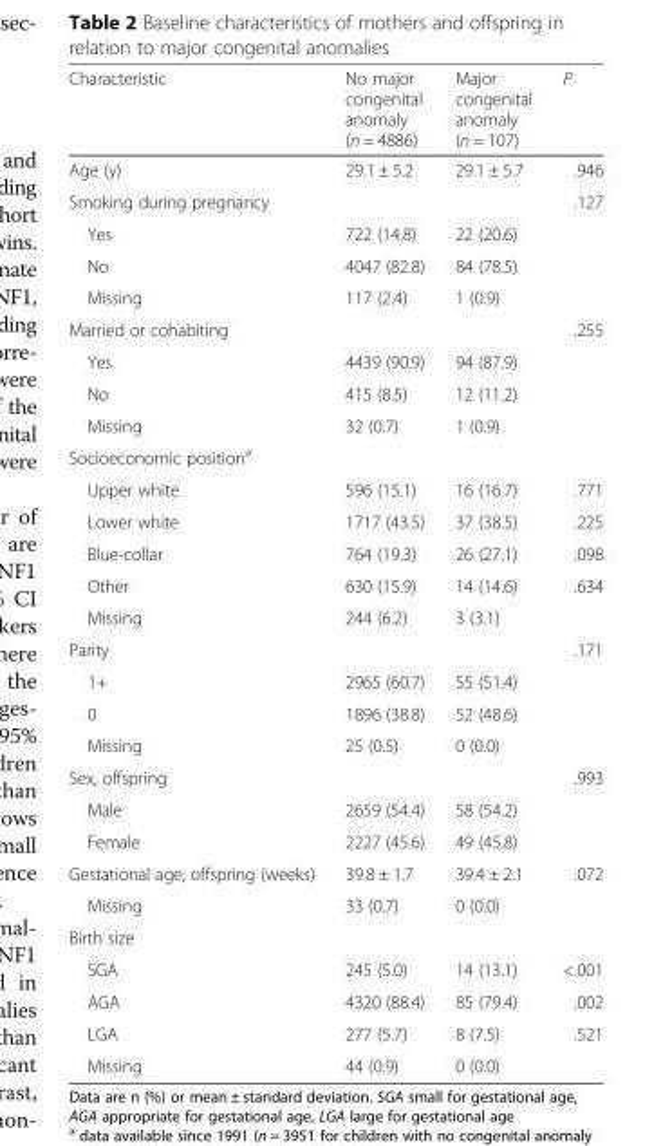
<table><thead><tr><td>Characteristic</td><td>No major congenital anomaly (n = 4886)</td><td>Major congenital anomaly (n = 107)</td><td>P</td></tr></thead><tbody><tr><td>Age (y)</td><td>29.1 ± 5.2</td><td>29.1 ± 5.7</td><td>.946</td></tr><tr><td>Smoking during pregnancy</td><td></td><td></td><td>.127</td></tr><tr><td>Yes</td><td>722 (14.8)</td><td>22 (20.6)</td><td></td></tr><tr><td>No</td><td>4047 (82.8)</td><td>84 (78.5)</td><td></td></tr><tr><td>Missing</td><td>117 (2.4)</td><td>1 (0.9)</td><td></td></tr><tr><td>Married or cohabiting</td><td></td><td></td><td>.255</td></tr><tr><td>Yes</td><td>4439 (90.9)</td><td>94 (87.9)</td><td></td></tr><tr><td>No</td><td>415 (8.5)</td><td>12 (11.2)</td><td></td></tr><tr><td>Missing</td><td>32 (0.7)</td><td>1 (0.9)</td><td></td></tr><tr><td colspan="4">Socioeconomic position<sup>a</sup></td></tr><tr><td>Upper white</td><td>596 (15.1)</td><td>16 (16.7)</td><td>.771</td></tr><tr><td>Lower white</td><td>1717 (43.5)</td><td>37 (38.5)</td><td>.225</td></tr><tr><td>Blue-collar</td><td>764 (19.3)</td><td>26 (27.1)</td><td>.098</td></tr><tr><td>Other</td><td>630 (15.9)</td><td>14 (14.6)</td><td>.634</td></tr><tr><td>Missing</td><td>244 (6.2)</td><td>3 (3.1)</td><td></td></tr><tr><td>Parity</td><td></td><td></td><td>.171</td></tr><tr><td>1+</td><td>2965 (60.7)</td><td>55 (51.4)</td><td></td></tr><tr><td>0</td><td>1896 (38.8)</td><td>52 (48.6)</td><td></td></tr><tr><td>Missing</td><td>25 (0.5)</td><td>0 (0.0)</td><td></td></tr><tr><td>Sex, offspring</td><td></td><td></td><td>.993</td></tr><tr><td>Male</td><td>2659 (54.4)</td><td>58 (54.2)</td><td></td></tr><tr><td>Female</td><td>2227 (45.6)</td><td>49 (45.8)</td><td></td></tr><tr><td>Gestational age, offspring (weeks)</td><td>39.8 ± 1.7</td><td>39.4 ± 2.1</td><td>.072</td></tr><tr><td>Missing</td><td>33 (0.7)</td><td>0 (0.0)</td><td></td></tr><tr><td colspan="4">Birth size</td></tr><tr><td>SGA</td><td>245 (5.0)</td><td>14 (13.1)</td><td>&lt;.001</td></tr><tr><td>AGA</td><td>4320 (88.4)</td><td>85 (79.4)</td><td>.002</td></tr><tr><td>LGA</td><td>277 (5.7)</td><td>8 (7.5)</td><td>.521</td></tr><tr><td>Missing</td><td>44 (0.9)</td><td>0 (0.0)</td><td></td></tr></tbody></table>